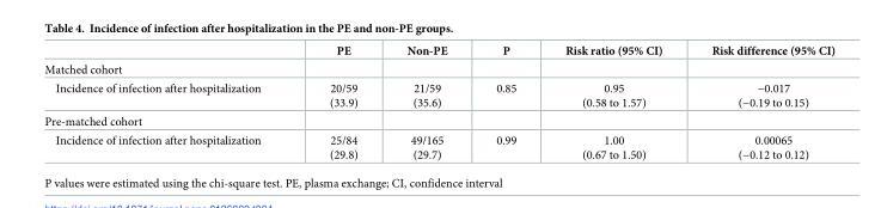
<table><thead><tr><td></td><td>PE</td><td>Non-PE</td><td>P</td><td>Risk ratio (95% CI)</td><td>Risk difference (95% CI)</td></tr></thead><tbody><tr><td colspan="6">Matched cohort</td></tr><tr><td>Incidence of infection after hospitalization</td><td>20/59 (33.9)</td><td>21/59 (35.6)</td><td>0.85</td><td>0.95 (0.58 to 1.57)</td><td>−0.017 (−0.19 to 0.15)</td></tr><tr><td colspan="6">Pre-matched cohort</td></tr><tr><td>Incidence of infection after hospitalization</td><td>25/84 (29.8)</td><td>49/165 (29.7)</td><td>0.99</td><td>1.00 (0.67 to 1.50)</td><td>0.00065 (−0.12 to 0.12)</td></tr></tbody></table>